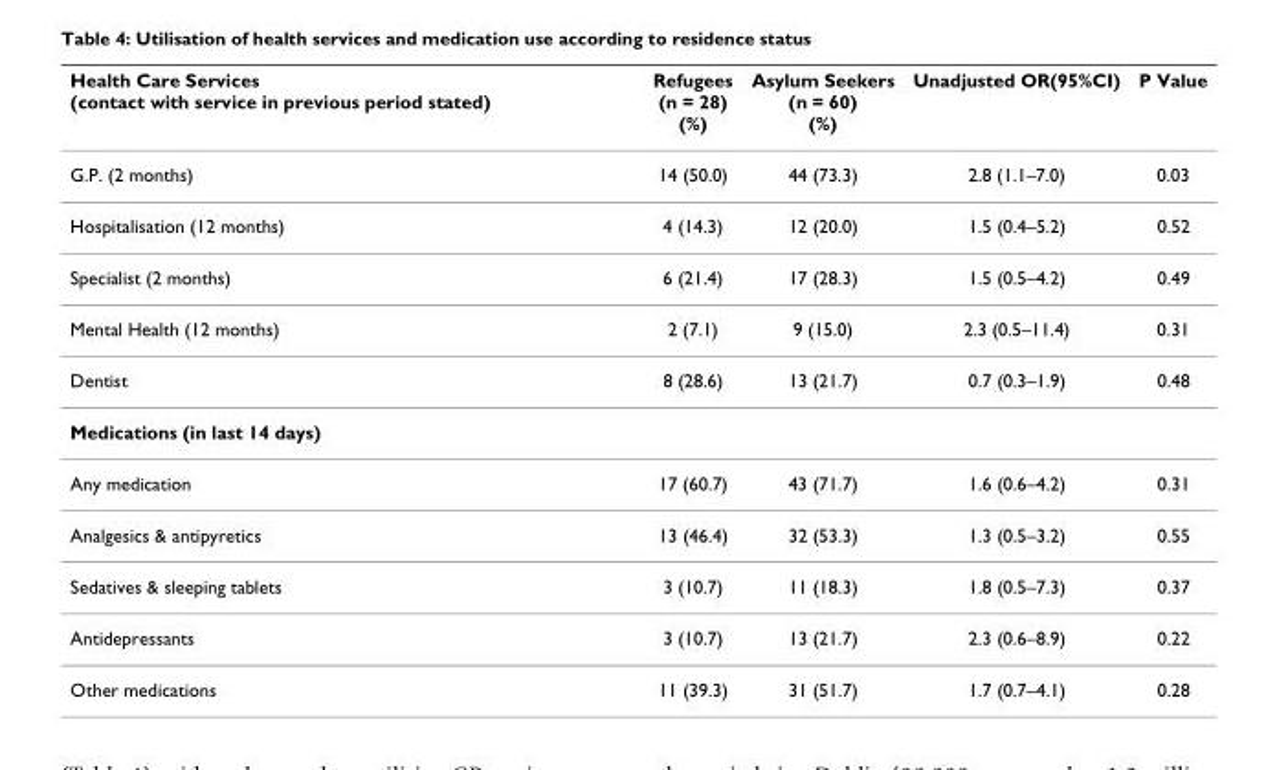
<table><thead><tr><td>Health Care Services (contact with service in previous period stated)</td><td>Refugees (n = 28) (%)</td><td>Asylum Seekers (n = 60) (%)</td><td>Unadjusted OR(95%CI)</td><td>P Value</td></tr></thead><tbody><tr><td>G.P. (2 months)</td><td>14 (50.0)</td><td>44 (73.3)</td><td>2.8 (1.1–7.0)</td><td>0.03</td></tr><tr><td>Hospitalisation (12 months)</td><td>4 (14.3)</td><td>12 (20.0)</td><td>1.5 (0.4–5.2)</td><td>0.52</td></tr><tr><td>Specialist (2 months)</td><td>6 (21.4)</td><td>17 (28.3)</td><td>1.5 (0.5–4.2)</td><td>0.49</td></tr><tr><td>Mental Health (12 months)</td><td>2 (7.1)</td><td>9 (15.0)</td><td>2.3 (0.5–11.4)</td><td>0.31</td></tr><tr><td>Dentist</td><td>8 (28.6)</td><td>13 (21.7)</td><td>0.7 (0.3–1.9)</td><td>0.48</td></tr><tr><td colspan="5">Medications (in last 14 days)</td></tr><tr><td>Any medication</td><td>17 (60.7)</td><td>43 (71.7)</td><td>1.6 (0.6–4.2)</td><td>0.31</td></tr><tr><td>Analgesics &amp; antipyretics</td><td>13 (46.4)</td><td>32 (53.3)</td><td>1.3 (0.5–3.2)</td><td>0.55</td></tr><tr><td>Sedatives &amp; sleeping tablets</td><td>3 (10.7)</td><td>11 (18.3)</td><td>1.8 (0.5–7.3)</td><td>0.37</td></tr><tr><td>Antidepressants</td><td>3 (10.7)</td><td>13 (21.7)</td><td>2.3 (0.6–8.9)</td><td>0.22</td></tr><tr><td>Other medications</td><td>11 (39.3)</td><td>31 (51.7)</td><td>1.7 (0.7–4.1)</td><td>0.28</td></tr></tbody></table>